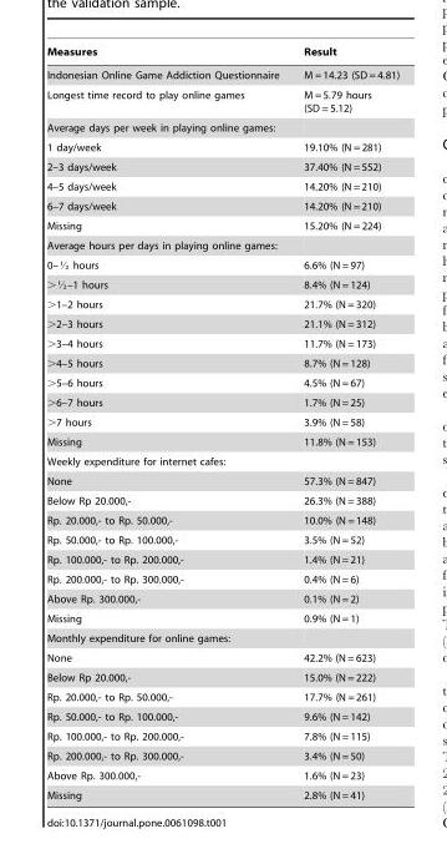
<table><thead><tr><td>Measures</td><td>Result</td></tr></thead><tbody><tr><td>Indonesian Online Game Addiction Questionnaire</td><td>M = 14.23 (SD = 4.81)</td></tr><tr><td>Longest time record to play online games</td><td>M = 5.79 hours (SD = 5.12)</td></tr><tr><td colspan="2">Average days per week in playing online games:</td></tr><tr><td>1 day/week</td><td>19.10% (N = 281)</td></tr><tr><td>2–3 days/week</td><td>37.40% (N = 552)</td></tr><tr><td>4–5 days/week</td><td>14.20% (N = 210)</td></tr><tr><td>6–7 days/week</td><td>14.20% (N = 210)</td></tr><tr><td>Missing</td><td>15.20% (N = 224)</td></tr><tr><td colspan="2">Average hours per days in playing online games:</td></tr><tr><td>0–K hours</td><td>6.6% (N = 97)</td></tr><tr><td>.K–1 hours</td><td>8.4% (N = 124)</td></tr><tr><td>&gt;1–2 hours</td><td>21.7% (N = 320)</td></tr><tr><td>&gt;2–3 hours</td><td>21.1% (N = 312)</td></tr><tr><td>&gt;3–4 hours</td><td>11.7% (N = 173)</td></tr><tr><td>&gt;4–5 hours</td><td>8.7% (N = 128)</td></tr><tr><td>&gt;5–6 hours</td><td>4.5% (N = 67)</td></tr><tr><td>&gt;6–7 hours</td><td>1.7% (N = 25)</td></tr><tr><td>&gt;7 hours</td><td>3.9% (N = 58)</td></tr><tr><td>Missing</td><td>11.8% (N = 153)</td></tr><tr><td colspan="2">Weekly expenditure for internet cafes:</td></tr><tr><td>None</td><td>57.3% (N = 847)</td></tr><tr><td>Below Rp 20.000,-</td><td>26.3% (N = 388)</td></tr><tr><td>Rp. 20.000,- to Rp. 50.000,-</td><td>10.0% (N = 148)</td></tr><tr><td>Rp. 50.000,- to Rp. 100.000,-</td><td>3.5% (N = 52)</td></tr><tr><td>Rp. 100.000,- to Rp. 200.000,-</td><td>1.4% (N = 21)</td></tr><tr><td>Rp. 200.000,- to Rp. 300.000,-</td><td>0.4% (N = 6)</td></tr><tr><td>Above Rp. 300.000,-</td><td>0.1% (N = 2)</td></tr><tr><td>Missing</td><td>0.9% (N = 1)</td></tr><tr><td colspan="2">Monthly expenditure for online games:</td></tr><tr><td>None</td><td>42.2% (N = 623)</td></tr><tr><td>Below Rp 20.000,-</td><td>15.0% (N = 222)</td></tr><tr><td>Rp. 20.000,- to Rp. 50.000,-</td><td>17.7% (N = 261)</td></tr><tr><td>Rp. 50.000,- to Rp. 100.000,-</td><td>9.6% (N = 142)</td></tr><tr><td>Rp. 100.000,- to Rp. 200.000,-</td><td>7.8% (N = 115)</td></tr><tr><td>Rp. 200.000,- to Rp. 300.000,-</td><td>3.4% (N = 50)</td></tr><tr><td>Above Rp. 300.000,-</td><td>1.6% (N = 23)</td></tr><tr><td>Missing</td><td>2.8% (N = 41)</td></tr></tbody></table>